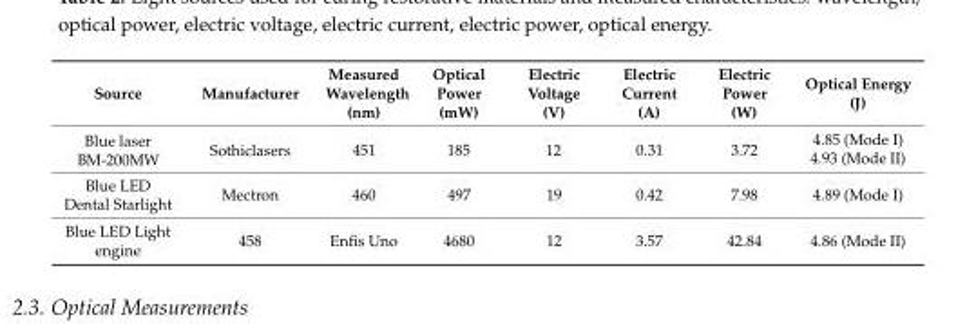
<table><thead><tr><td>Source</td><td>Manufacturer</td><td>Measured Wavelength (nm)</td><td>Optical Power (mW)</td><td>Electric Voltage (V)</td><td>Electric Current (A)</td><td>Electric Power (W)</td><td>Optical Energy (J)</td></tr></thead><tbody><tr><td rowspan="2">Blue laser BM-200MW</td><td rowspan="2">Sothiclasers</td><td rowspan="2">451</td><td rowspan="2">185</td><td rowspan="2">12</td><td rowspan="2">0.31</td><td rowspan="2">3.72</td><td>4.85 (Mode I)</td></tr><tr><td>4.93 (Mode II)</td></tr><tr><td>Blue LED Dental Starlight</td><td>Mectron</td><td>460</td><td>497</td><td>19</td><td>0.42</td><td>7.98</td><td>4.89 (Mode I)</td></tr><tr><td>Blue LED Light engine</td><td>458</td><td>Enfis Uno</td><td>4680</td><td>12</td><td>3.57</td><td>42.84</td><td>4.86 (Mode II)</td></tr></tbody></table>